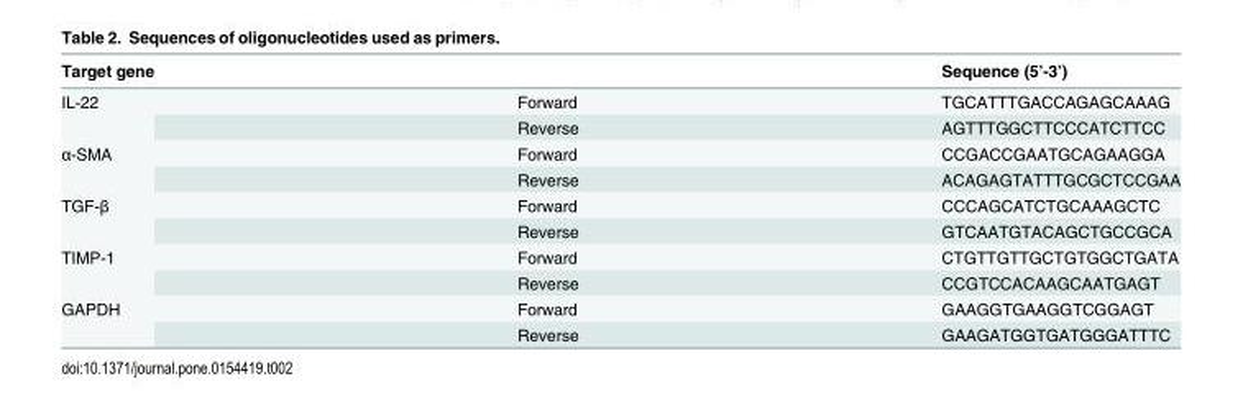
<table><thead><tr><td>Target gene</td><td></td><td>Sequence (5’-3’)</td></tr></thead><tbody><tr><td rowspan="2">IL-22</td><td>Forward</td><td>TGCATTTGACCAGAGCAAAG</td></tr><tr><td>Reverse</td><td>AGTTTGGCTTCCCATCTTCC</td></tr><tr><td rowspan="2">α-SMA</td><td>Forward</td><td>CCGACCGAATGCAGAAGGA</td></tr><tr><td>Reverse</td><td>ACAGAGTATTTGCGCTCCGAA</td></tr><tr><td rowspan="2">TGF-β</td><td>Forward</td><td>CCCAGCATCTGCAAAGCTC</td></tr><tr><td>Reverse</td><td>GTCAATGTACAGCTGCCGCA</td></tr><tr><td rowspan="2">TIMP-1</td><td>Forward</td><td>CTGTTGTTGCTGTGGCTGATA</td></tr><tr><td>Reverse</td><td>CCGTCCACAAGCAATGAGT</td></tr><tr><td rowspan="2">GAPDH</td><td>Forward</td><td>GAAGGTGAAGGTCGGAGT</td></tr><tr><td>Reverse</td><td>GAAGATGGTGATGGGATTTC</td></tr></tbody></table>